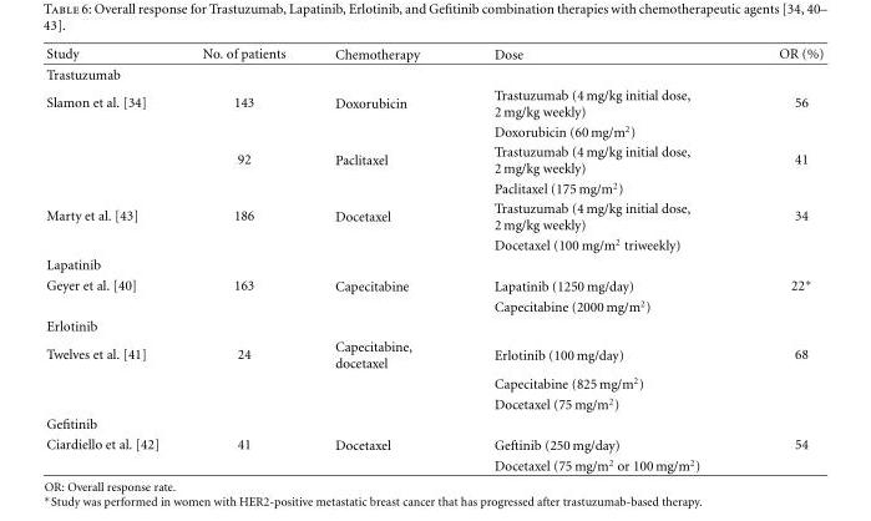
<table><thead><tr><td>Study</td><td>No. of patients</td><td>Chemotherapy</td><td>Dose</td><td>OR (%)</td></tr></thead><tbody><tr><td colspan="5">Trastuzumab</td></tr><tr><td rowspan="4">Slamon et al. [34]</td><td>143</td><td>Doxorubicin</td><td>Trastuzumab (4 mg/kg initial dose, 2 mg/kg weekly)</td><td>56</td></tr><tr><td></td><td></td><td>Doxorubicin (60 mg/m<sup>2</sup>)</td><td></td></tr><tr><td>92</td><td>Paclitaxel</td><td>Trastuzumab (4 mg/kg initial dose, 2 mg/kg weekly)</td><td>41</td></tr><tr><td></td><td></td><td>Paclitaxel (175 mg/m<sup>2</sup>)</td><td></td></tr><tr><td rowspan="2">Marty et al. [43]</td><td>186</td><td>Docetaxel</td><td>Trastuzumab (4 mg/kg initial dose, 2 mg/kg weekly)</td><td>34</td></tr><tr><td></td><td></td><td>Docetaxel (100 mg/m<sup>2</sup> triweekly)</td><td></td></tr><tr><td colspan="5">Lapatinib</td></tr><tr><td rowspan="2">Geyer et al. [40]</td><td>163</td><td>Capecitabine</td><td>Lapatinib (1250 mg/day)</td><td>22∗</td></tr><tr><td></td><td></td><td>Capecitabine (2000 mg/m<sup>2</sup>)</td><td></td></tr><tr><td colspan="5">Erlotinib</td></tr><tr><td rowspan="3">Twelves et al. [41]</td><td>24</td><td>Capecitabine, docetaxel</td><td>Erlotinib (100 mg/day)</td><td>68</td></tr><tr><td></td><td></td><td>Capecitabine (825 mg/m<sup>2</sup>)</td><td></td></tr><tr><td></td><td></td><td>Docetaxel (75 mg/m<sup>2</sup>)</td><td></td></tr><tr><td colspan="5">Gefitinib</td></tr><tr><td rowspan="2">Ciardiello et al. [42]</td><td>41</td><td>Docetaxel</td><td>Geftinib (250 mg/day)</td><td>54</td></tr><tr><td></td><td></td><td>Docetaxel (75 mg/m<sup>2</sup> or 100 mg/m<sup>2</sup>)</td><td></td></tr></tbody></table>